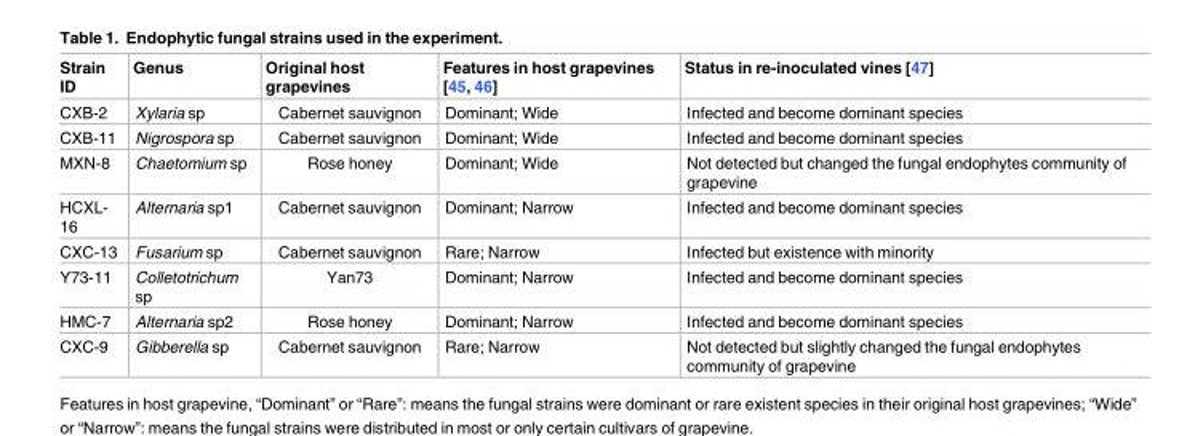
<table><thead><tr><td>Strain ID</td><td>Genus</td><td>Original host grapevines</td><td>Features in host grapevines [45, 46]</td><td>Status in re-inoculated vines [47]</td></tr></thead><tbody><tr><td>CXB-2</td><td>Xylaria sp</td><td>Cabernet sauvignon</td><td>Dominant; Wide</td><td>Infected and become dominant species</td></tr><tr><td>CXB-11</td><td>Nigrospora sp</td><td>Cabernet sauvignon</td><td>Dominant; Wide</td><td>Infected and become dominant species</td></tr><tr><td>MXN-8</td><td>Chaetomium sp</td><td>Rose honey</td><td>Dominant; Wide</td><td>Not detected but changed the fungal endophytes community of grapevine</td></tr><tr><td>HCXL- 16</td><td>Alternaria sp1</td><td>Cabernet sauvignon</td><td>Dominant; Narrow</td><td>Infected and become dominant species</td></tr><tr><td>CXC-13</td><td>Fusarium sp</td><td>Cabernet sauvignon</td><td>Rare; Narrow</td><td>Infected but existence with minority</td></tr><tr><td>Y73-11</td><td>Colletotrichum sp</td><td>Yan73</td><td>Dominant; Narrow</td><td>Infected and become dominant species</td></tr><tr><td>HMC-7</td><td>Alternaria sp2</td><td>Rose honey</td><td>Dominant; Narrow</td><td>Infected and become dominant species</td></tr><tr><td>CXC-9</td><td>Gibberella sp</td><td>Cabernet sauvignon</td><td>Rare; Narrow</td><td>Not detected but slightly changed the fungal endophytes community of grapevine</td></tr></tbody></table>